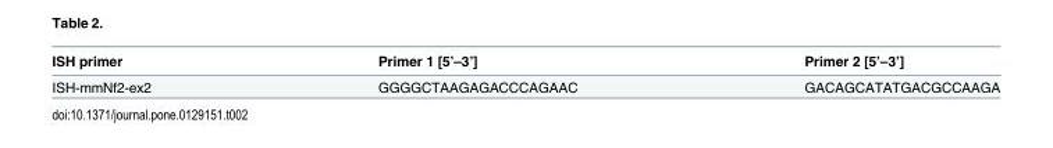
<table><thead><tr><td>ISH primer</td><td>Primer 1 [5’–3’]</td><td>Primer 2 [5’–3’]</td></tr></thead><tbody><tr><td>ISH-mmNf2-ex2</td><td>GGGGCTAAGAGACCCAGAAC</td><td>GACAGCATATGACGCCAAGA</td></tr></tbody></table>